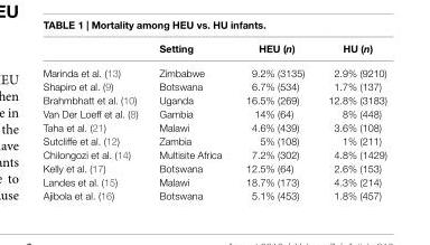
<table><thead><tr><td></td><td>Setting</td><td>HeU (n)</td><td>HU (n)</td></tr></thead><tbody><tr><td>Marinda et al. (13)</td><td>Zimbabwe</td><td>9.2% (3135)</td><td>2.9% (9210)</td></tr><tr><td>Shapiro et al. (9)</td><td>Botswana</td><td>6.7% (534)</td><td>1.7% (137)</td></tr><tr><td>Brahmbhatt et al. (10)</td><td>Uganda</td><td>16.5% (269)</td><td>12.8% (3183)</td></tr><tr><td>Van Der Loeff et al. (8)</td><td>Gambia</td><td>14% (64)</td><td>8% (448)</td></tr><tr><td>Taha et al. (21)</td><td>Malawi</td><td>4.6% (439)</td><td>3.6% (108)</td></tr><tr><td>Sutcliffe et al. (12)</td><td>Zambia</td><td>5% (108)</td><td>1% (211)</td></tr><tr><td>Chilongozi et al. (14)</td><td>Multisite Africa</td><td>7.2% (302)</td><td>4.8% (1429)</td></tr><tr><td>Kelly et al. (17)</td><td>Botswana</td><td>12.5% (64)</td><td>2.6% (153)</td></tr><tr><td>Landes et al. (15)</td><td>Malawi</td><td>18.7% (173)</td><td>4.3% (214)</td></tr><tr><td>Ajibola et al. (16)</td><td>Botswana</td><td>5.1% (453)</td><td>1.8% (457)</td></tr></tbody></table>